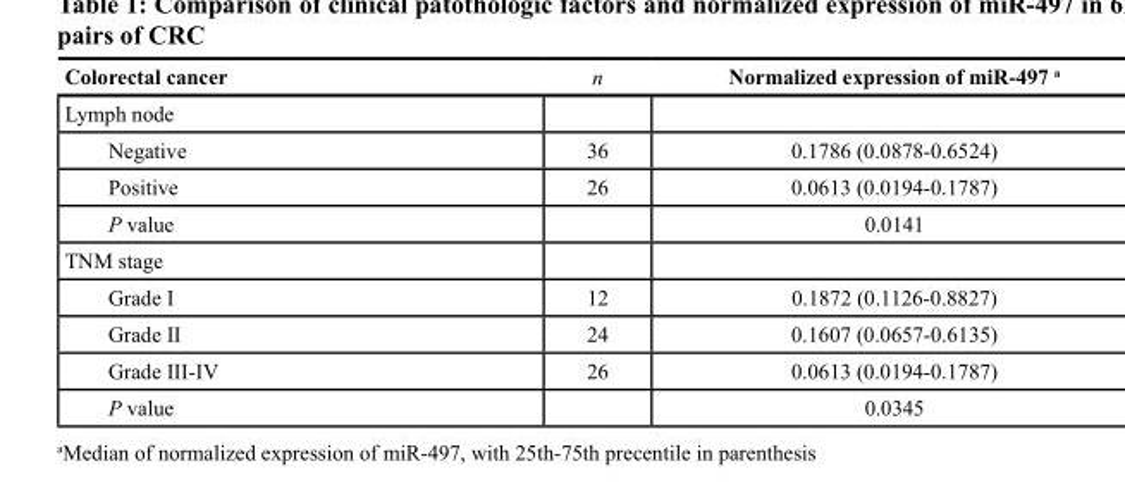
<table><thead><tr><td>Colorectal cancer</td><td>n</td><td>Normalized expression of miR-497 <sup>a</sup></td></tr></thead><tbody><tr><td colspan="3">Lymph node</td></tr><tr><td>Negative</td><td>36</td><td>0.1786 (0.0878-0.6524)</td></tr><tr><td>Positive</td><td>26</td><td>0.0613 (0.0194-0.1787)</td></tr><tr><td>P value</td><td></td><td>0.0141</td></tr><tr><td colspan="3">TNM stage</td></tr><tr><td>Grade I</td><td>12</td><td>0.1872 (0.1126-0.8827)</td></tr><tr><td>Grade II</td><td>24</td><td>0.1607 (0.0657-0.6135)</td></tr><tr><td>Grade III-IV</td><td>26</td><td>0.0613 (0.0194-0.1787)</td></tr><tr><td>P value</td><td></td><td>0.0345</td></tr></tbody></table>